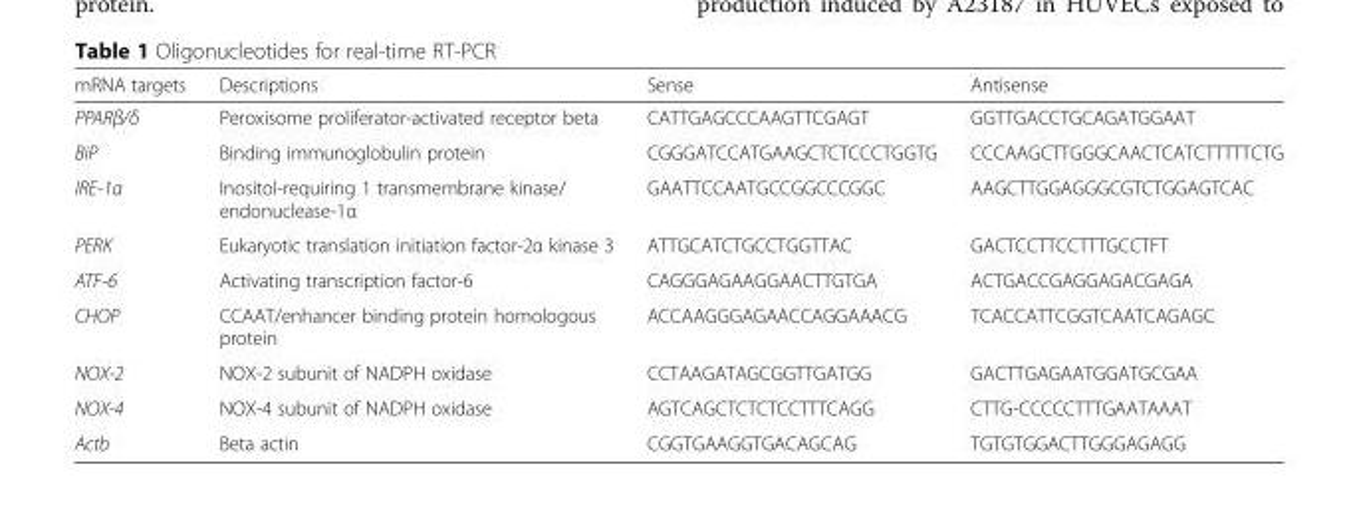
<table><thead><tr><td>mRNA targets</td><td>Descriptions</td><td>Sense</td><td>Antisense</td></tr></thead><tbody><tr><td>PPARβ/δ</td><td>Peroxisome proliferator-activated receptor beta</td><td>CATTGAGCCCAAGTTCGAGT</td><td>GGTTGACCTGCAGATGGAAT</td></tr><tr><td>BiP</td><td>Binding immunoglobulin protein</td><td>CGGGATCCATGAAGCTCTCCCTGGTG</td><td>CCCAAGCTTGGGCAACTCATCTTTTTCTG</td></tr><tr><td>IRE-1α</td><td>Inositol-requiring 1 transmembrane kinase/ endonuclease-1α</td><td>GAATTCCAATGCCGGCCCGGC</td><td>AAGCTTGGAGGGCGTCTGGAGTCAC</td></tr><tr><td>PERK</td><td>Eukaryotic translation initiation factor-2α kinase 3</td><td>ATTGCATCTGCCTGGTTAC</td><td>GACTCCTTCCTTTGCCTFT</td></tr><tr><td>ATF-6</td><td>Activating transcription factor-6</td><td>CAGGGAGAAGGAACTTGTGA</td><td>ACTGACCGAGGAGACGAGA</td></tr><tr><td>CHOP</td><td>CCAAT/enhancer binding protein homologous protein</td><td>ACCAAGGGAGAACCAGGAAACG</td><td>TCACCATTCGGTCAATCAGAGC</td></tr><tr><td>NOX-2</td><td>NOX-2 subunit of NADPH oxidase</td><td>CCTAAGATAGCGGTTGATGG</td><td>GACTTGAGAATGGATGCGAA</td></tr><tr><td>NOX-4</td><td>NOX-4 subunit of NADPH oxidase</td><td>AGTCAGCTCTCTCCTTTCAGG</td><td>CTTG-CCCCCTTTGAATAAAT</td></tr><tr><td>Actb</td><td>Beta actin</td><td>CGGTGAAGGTGACAGCAG</td><td>TGTGTGGACTTGGGAGAGG</td></tr></tbody></table>